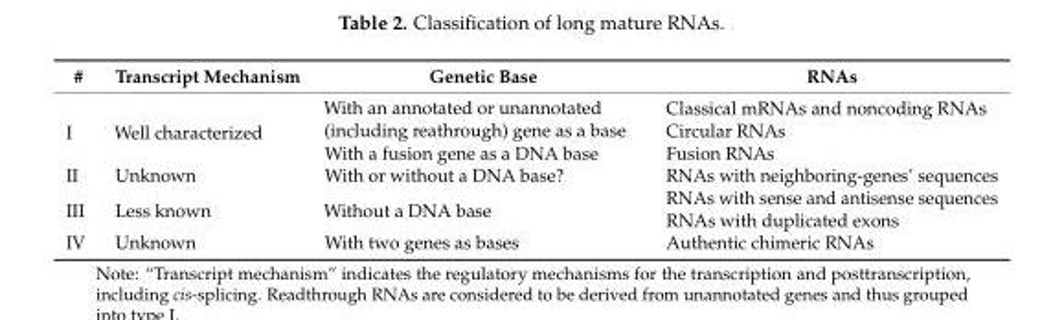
<table><thead><tr><td>#</td><td>Transcript Mechanism</td><td>Genetic Base</td><td>RNAs</td></tr></thead><tbody><tr><td rowspan="3">I</td><td rowspan="3">Well characterized</td><td rowspan="2">With an annotated or unannotated (including reathrough) gene as a base</td><td>Classical mRNAs and noncoding RNAs</td></tr><tr><td>Circular RNAs</td></tr><tr><td>With a fusion gene as a DNA base</td><td>Fusion RNAs</td></tr><tr><td>II</td><td>Unknown</td><td>With or without a DNA base?</td><td>RNAs with neighboring-genes’ sequences</td></tr><tr><td rowspan="2">III</td><td rowspan="2">Less known</td><td rowspan="2">Without a DNA base</td><td>RNAs with sense and antisense sequences</td></tr><tr><td>RNAs with duplicated exons</td></tr><tr><td>IV</td><td>Unknown</td><td>With two genes as bases</td><td>Authentic chimeric RNAs</td></tr></tbody></table>